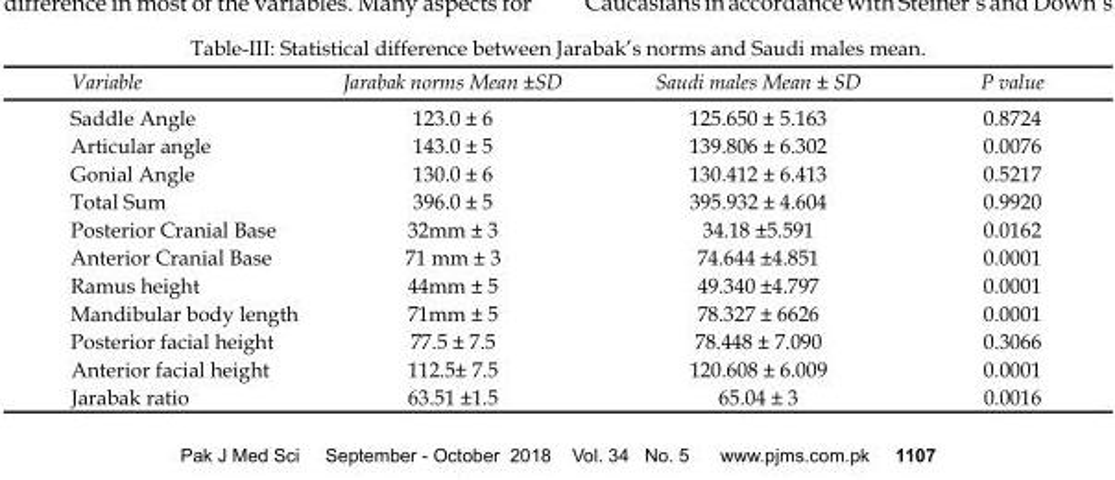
<table><thead><tr><td>Variable</td><td>Jarabak norms Mean ±SD</td><td>Saudi males Mean ± SD</td><td>P value</td></tr></thead><tbody><tr><td>Saddle Angle</td><td>123.0 ± 6</td><td>125.650 ± 5.163</td><td>0.8724</td></tr><tr><td>Articular angle</td><td>143.0 ± 5</td><td>139.806 ± 6.302</td><td>0.0076</td></tr><tr><td>Gonial Angle</td><td>130.0 ± 6</td><td>130.412 ± 6.413</td><td>0.5217</td></tr><tr><td>Total Sum</td><td>396.0 ± 5</td><td>395.932 ± 4.604</td><td>0.9920</td></tr><tr><td>Posterior Cranial Base</td><td>32mm ± 3</td><td>34.18 ±5.591</td><td>0.0162</td></tr><tr><td>Anterior Cranial Base</td><td>71 mm ± 3</td><td>74.644 ±4.851</td><td>0.0001</td></tr><tr><td>Ramus height</td><td>44mm ± 5</td><td>49.340 ±4.797</td><td>0.0001</td></tr><tr><td>Mandibular body length</td><td>71mm ± 5</td><td>78.327 ± 6626</td><td>0.0001</td></tr><tr><td>Posterior facial height</td><td>77.5 ± 7.5</td><td>78.448 ± 7.090</td><td>0.3066</td></tr><tr><td>Anterior facial height</td><td>112.5± 7.5</td><td>120.608 ± 6.009</td><td>0.0001</td></tr><tr><td>Jarabak ratio</td><td>63.51 ±1.5</td><td>65.04 ± 3</td><td>0.0016</td></tr></tbody></table>